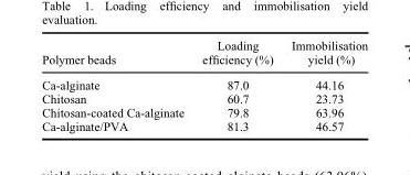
<table><thead><tr><td>Polymer beads</td><td>Loading efficiency (%)</td><td>Immobilisation yield (%)</td></tr></thead><tbody><tr><td>Ca-alginate</td><td>87.0</td><td>44.16</td></tr><tr><td>Chitosan</td><td>60.7</td><td>23.73</td></tr><tr><td>Chitosan-coated Ca-alginate</td><td>79.8</td><td>63.96</td></tr><tr><td>Ca-alginate/PVA</td><td>81.3</td><td>46.57</td></tr></tbody></table>